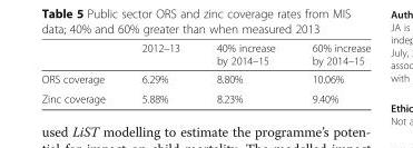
<table><thead><tr><td></td><td>2012–13</td><td>40% increase by 2014–15</td><td>60% increase by 2014–15</td></tr></thead><tbody><tr><td>ORS coverage</td><td>6.29%</td><td>8.80%</td><td>10.06%</td></tr><tr><td>Zinc coverage</td><td>5.88%</td><td>8.23%</td><td>9.40%</td></tr></tbody></table>